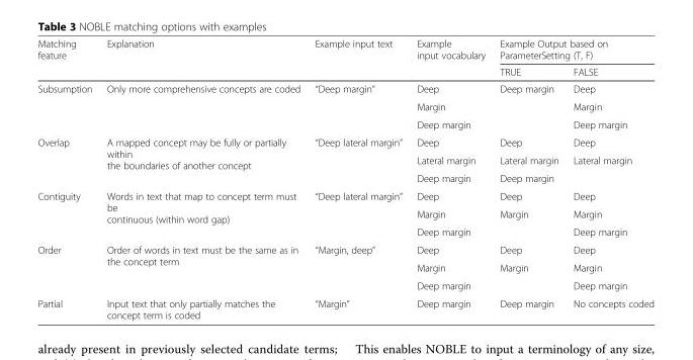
<table><thead><tr><td rowspan="2">Matching feature</td><td rowspan="2">Explanation</td><td rowspan="2">Example input text</td><td rowspan="2">Example input vocabulary</td><td colspan="2">Example Output based on ParameterSetting (T, F)</td></tr><tr><td>TRUE</td><td>FALSE</td></tr></thead><tbody><tr><td rowspan="3">Subsumption</td><td rowspan="3">Only more comprehensive concepts are coded</td><td rowspan="3">“Deep margin”</td><td>Deep</td><td>Deep margin</td><td>Deep</td></tr><tr><td>Margin</td><td></td><td>Margin</td></tr><tr><td>Deep margin</td><td></td><td>Deep margin</td></tr><tr><td rowspan="3">Overlap</td><td rowspan="3">A mapped concept may be fully or partially within the boundaries of another concept</td><td rowspan="3">“Deep lateral margin”</td><td>Deep</td><td>Deep</td><td>Deep</td></tr><tr><td>Lateral margin</td><td>Lateral margin</td><td>Lateral margin</td></tr><tr><td>Deep margin</td><td>Deep margin</td><td></td></tr><tr><td rowspan="3">Contiguity</td><td rowspan="3">Words in text that map to concept term must be continuous (within word gap)</td><td rowspan="3">“Deep lateral margin”</td><td>Deep</td><td>Deep</td><td>Deep</td></tr><tr><td>Margin</td><td>Margin</td><td>Margin</td></tr><tr><td>Deep margin</td><td></td><td>Deep margin</td></tr><tr><td rowspan="3">Order</td><td rowspan="3">Order of words in text must be the same as in the concept term</td><td rowspan="3">“Margin, deep”</td><td>Deep</td><td>Deep</td><td>Deep</td></tr><tr><td>Margin</td><td>Margin</td><td>Margin</td></tr><tr><td>Deep margin</td><td></td><td>Deep margin</td></tr><tr><td>Partial</td><td>Input text that only partially matches the concept term is coded</td><td>“Margin”</td><td>Deep margin</td><td>Deep margin</td><td>No concepts coded</td></tr></tbody></table>